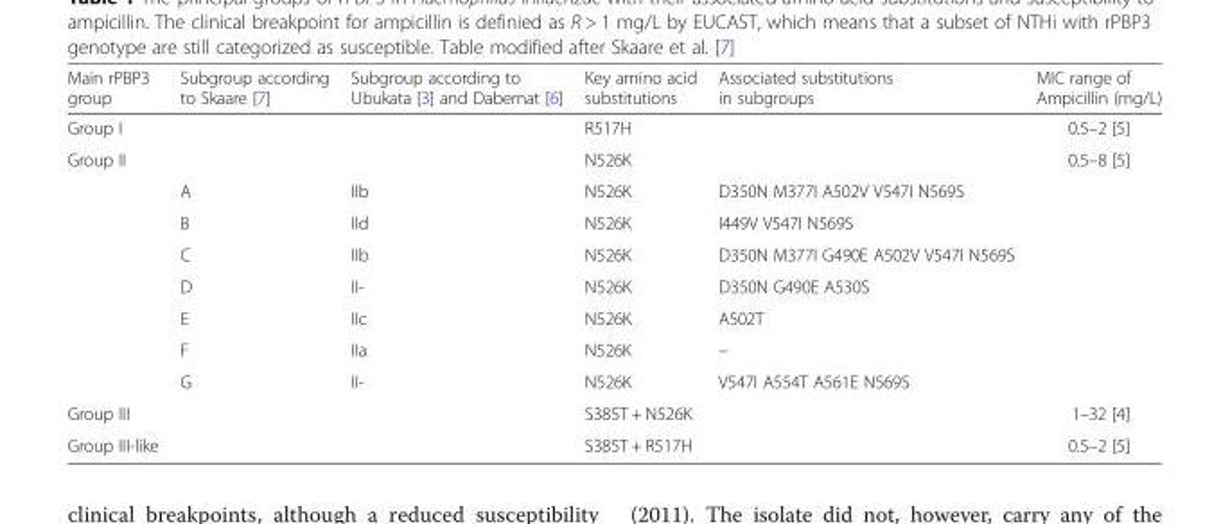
<table><thead><tr><td>Main rPBP3 group</td><td>Subgroup according to Skaare [7]</td><td>Subgroup according to Ubukata [3] and Dabernat [6]</td><td>Key amino acid substitutions</td><td>Associated substitutions in subgroups</td><td>MIC range of Ampicillin (mg/L)</td></tr></thead><tbody><tr><td>Group I</td><td></td><td></td><td>R517H</td><td></td><td>0.5–2 [5]</td></tr><tr><td rowspan="8">Group II</td><td></td><td></td><td>N526K</td><td></td><td>0.5–8 [5]</td></tr><tr><td>A</td><td>IIb</td><td>N526K</td><td>D350N M377I A502V V547I N569S</td><td></td></tr><tr><td>B</td><td>IId</td><td>N526K</td><td>I449V V547I N569S</td><td></td></tr><tr><td>C</td><td>IIb</td><td>N526K</td><td>D350N M377I G490E A502V V547I N569S</td><td></td></tr><tr><td>D</td><td>II-</td><td>N526K</td><td>D350N G490E A530S</td><td></td></tr><tr><td>E</td><td>IIc</td><td>N526K</td><td>A502T</td><td></td></tr><tr><td>F</td><td>IIa</td><td>N526K</td><td>–</td><td></td></tr><tr><td>G</td><td>II-</td><td>N526K</td><td>V547I A554T A561E N569S</td><td></td></tr><tr><td>Group III</td><td></td><td></td><td>S385T + N526K</td><td></td><td>1–32 [4]</td></tr><tr><td>Group III-like</td><td></td><td></td><td>S385T + R517H</td><td></td><td>0.5–2 [5]</td></tr></tbody></table>